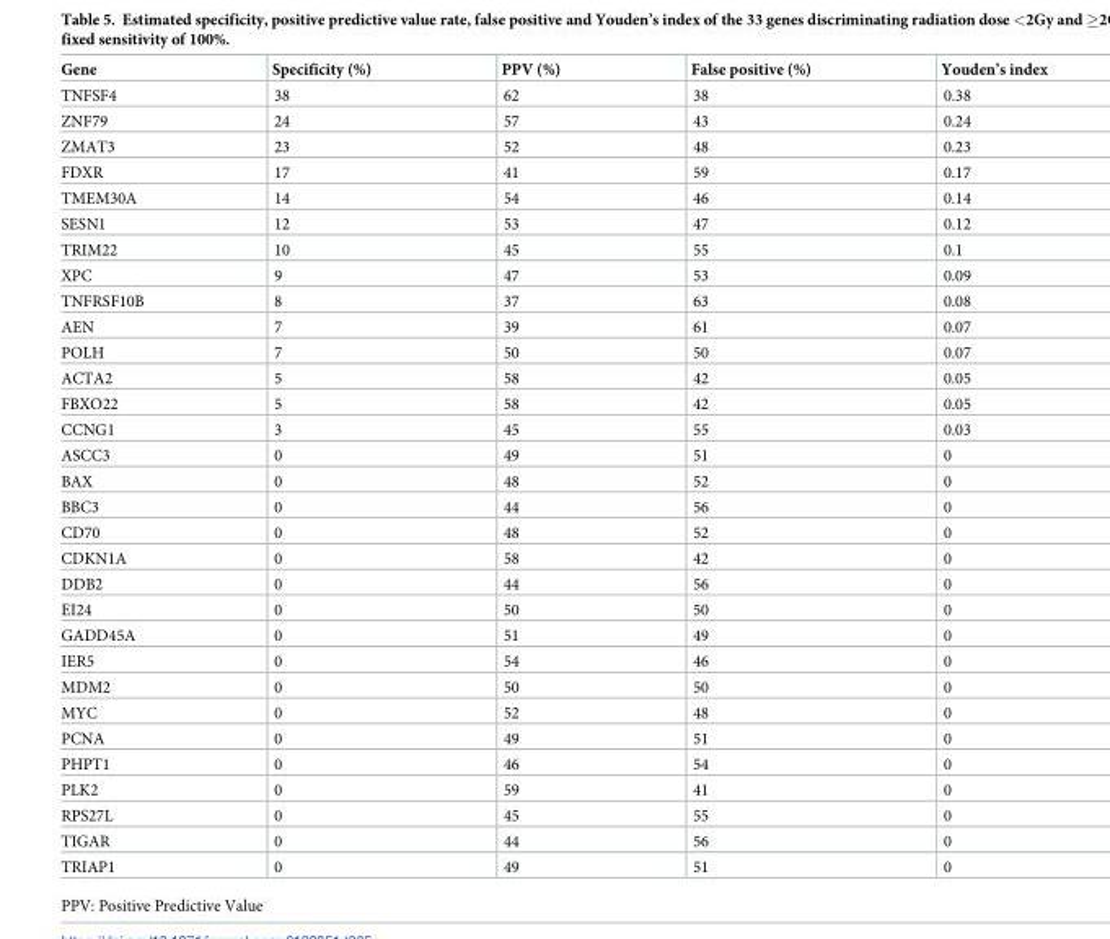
<table><thead><tr><td>Gene</td><td>Specificity (%)</td><td>PPV (%)</td><td>False positive (%)</td><td>Youden’s index</td></tr></thead><tbody><tr><td>TNFSF4</td><td>38</td><td>62</td><td>38</td><td>0.38</td></tr><tr><td>ZNF79</td><td>24</td><td>57</td><td>43</td><td>0.24</td></tr><tr><td>ZMAT3</td><td>23</td><td>52</td><td>48</td><td>0.23</td></tr><tr><td>FDXR</td><td>17</td><td>41</td><td>59</td><td>0.17</td></tr><tr><td>TMEM30A</td><td>14</td><td>54</td><td>46</td><td>0.14</td></tr><tr><td>SESN1</td><td>12</td><td>53</td><td>47</td><td>0.12</td></tr><tr><td>TRIM22</td><td>10</td><td>45</td><td>55</td><td>0.1</td></tr><tr><td>XPC</td><td>9</td><td>47</td><td>53</td><td>0.09</td></tr><tr><td>TNFRSF10B</td><td>8</td><td>37</td><td>63</td><td>0.08</td></tr><tr><td>AEN</td><td>7</td><td>39</td><td>61</td><td>0.07</td></tr><tr><td>POLH</td><td>7</td><td>50</td><td>50</td><td>0.07</td></tr><tr><td>ACTA2</td><td>5</td><td>58</td><td>42</td><td>0.05</td></tr><tr><td>FBXO22</td><td>5</td><td>58</td><td>42</td><td>0.05</td></tr><tr><td>CCNG1</td><td>3</td><td>45</td><td>55</td><td>0.03</td></tr><tr><td>ASCC3</td><td>0</td><td>49</td><td>51</td><td>0</td></tr><tr><td>BAX</td><td>0</td><td>48</td><td>52</td><td>0</td></tr><tr><td>BBC3</td><td>0</td><td>44</td><td>56</td><td>0</td></tr><tr><td>CD70</td><td>0</td><td>48</td><td>52</td><td>0</td></tr><tr><td>CDKN1A</td><td>0</td><td>58</td><td>42</td><td>0</td></tr><tr><td>DDB2</td><td>0</td><td>44</td><td>56</td><td>0</td></tr><tr><td>EI24</td><td>0</td><td>50</td><td>50</td><td>0</td></tr><tr><td>GADD45A</td><td>0</td><td>51</td><td>49</td><td>0</td></tr><tr><td>IER5</td><td>0</td><td>54</td><td>46</td><td>0</td></tr><tr><td>MDM2</td><td>0</td><td>50</td><td>50</td><td>0</td></tr><tr><td>MYC</td><td>0</td><td>52</td><td>48</td><td>0</td></tr><tr><td>PCNA</td><td>0</td><td>49</td><td>51</td><td>0</td></tr><tr><td>PHPT1</td><td>0</td><td>46</td><td>54</td><td>0</td></tr><tr><td>PLK2</td><td>0</td><td>59</td><td>41</td><td>0</td></tr><tr><td>RPS27L</td><td>0</td><td>45</td><td>55</td><td>0</td></tr><tr><td>TIGAR</td><td>0</td><td>44</td><td>56</td><td>0</td></tr><tr><td>TRIAP1</td><td>0</td><td>49</td><td>51</td><td>0</td></tr></tbody></table>